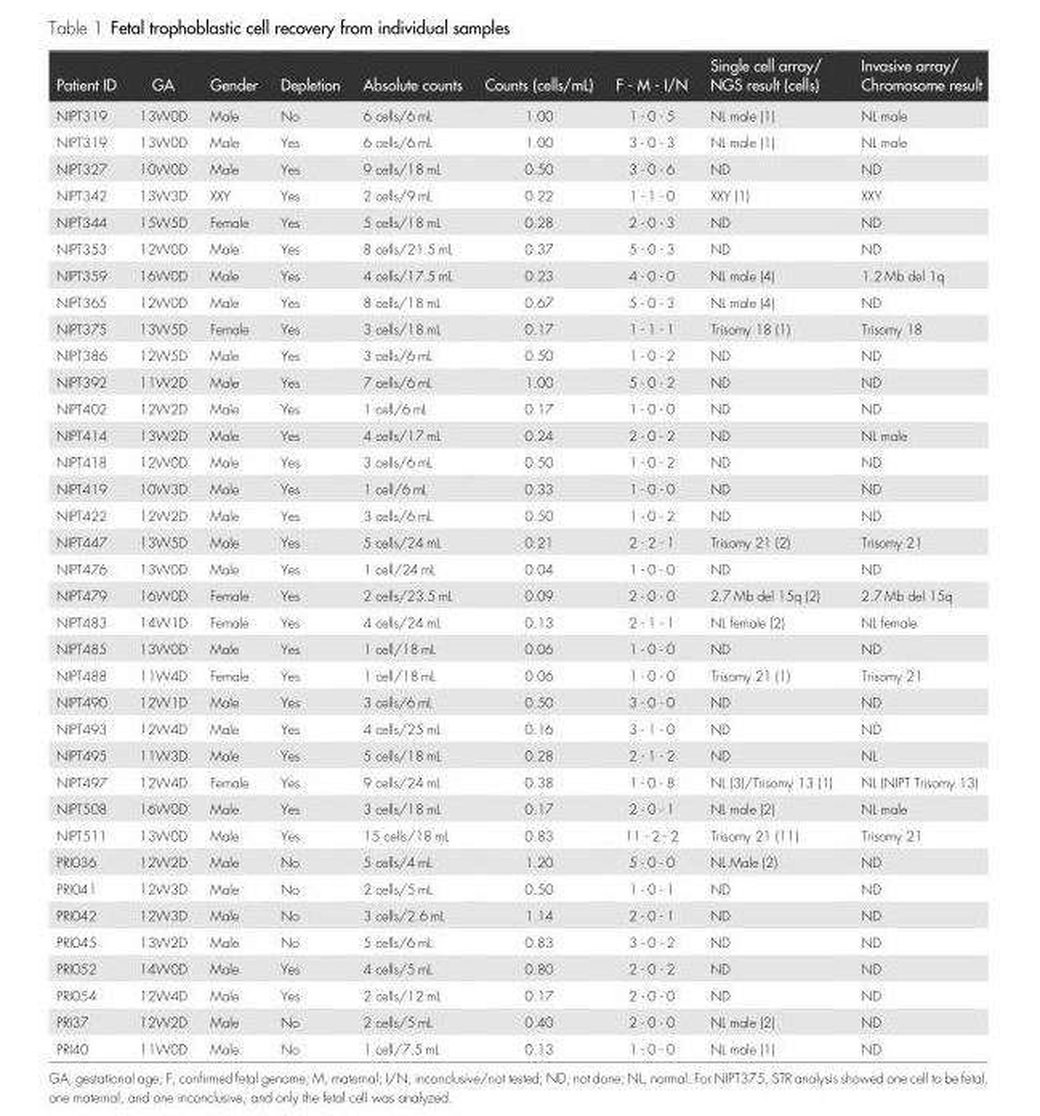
<table><thead><tr><td>Patient ID</td><td>GA</td><td>Gender</td><td>Depletion</td><td>Absolute counts</td><td>Counts (cells/mL)</td><td>F - M - I/N</td><td>Single cell array/ NGS result (cells)</td><td>Invasive array/ Chromosome result</td></tr></thead><tbody><tr><td>NIPT319</td><td>13W0D</td><td>Male</td><td>No</td><td>6 cells/6 mL</td><td>1.00</td><td>1 - 0 - 5</td><td>NL male (1)</td><td>NL male</td></tr><tr><td>NIPT319</td><td>13W0D</td><td>Male</td><td>Yes</td><td>6 cells/6 mL</td><td>1.00</td><td>3 - 0 - 3</td><td>NL male (1)</td><td>NL male</td></tr><tr><td>NIPT327</td><td>10W0D</td><td>Male</td><td>Yes</td><td>9 cells/18 mL</td><td>0.50</td><td>3 - 0 - 6</td><td>ND</td><td>ND</td></tr><tr><td>NIPT342</td><td>13W3D</td><td>XXY</td><td>Yes</td><td>2 cells/9 mL</td><td>0.22</td><td>1 - 1 - 0</td><td>XXY (1)</td><td>XXY</td></tr><tr><td>NIPT344</td><td>15W5D</td><td>Female</td><td>Yes</td><td>5 cells/18 mL</td><td>0.28</td><td>2 - 0 - 3</td><td>ND</td><td>ND</td></tr><tr><td>NIPT353</td><td>12W0D</td><td>Male</td><td>Yes</td><td>8 cells/21.5 mL</td><td>0.37</td><td>5 - 0 - 3</td><td>ND</td><td>ND</td></tr><tr><td>NIPT359</td><td>16W0D</td><td>Male</td><td>Yes</td><td>4 cells/17.5 mL</td><td>0.23</td><td>4 - 0 - 0</td><td>NL male (4)</td><td>1.2 Mb del 1q</td></tr><tr><td>NIPT365</td><td>12W0D</td><td>Male</td><td>Yes</td><td>8 cells/18 mL</td><td>0.67</td><td>5 - 0 - 3</td><td>NL male (4)</td><td>ND</td></tr><tr><td>NIPT375</td><td>13W5D</td><td>Female</td><td>Yes</td><td>3 cells/18 mL</td><td>0.17</td><td>1 - 1 - 1</td><td>Trisomy 18 (1)</td><td>Trisomy 18</td></tr><tr><td>NIPT386</td><td>12W5D</td><td>Male</td><td>Yes</td><td>3 cells/6 mL</td><td>0.50</td><td>1 - 0 - 2</td><td>ND</td><td>ND</td></tr><tr><td>NIPT392</td><td>11W2D</td><td>Male</td><td>Yes</td><td>7 cells/6 mL</td><td>1.00</td><td>5 - 0 - 2</td><td>ND</td><td>ND</td></tr><tr><td>NIPT402</td><td>12W2D</td><td>Male</td><td>Yes</td><td>1 cell/6 mL</td><td>0.17</td><td>1 - 0 - 0</td><td>ND</td><td>ND</td></tr><tr><td>NIPT414</td><td>13W2D</td><td>Male</td><td>Yes</td><td>4 cells/17 mL</td><td>0.24</td><td>2 - 0 - 2</td><td>ND</td><td>NL male</td></tr><tr><td>NIPT418</td><td>12W0D</td><td>Male</td><td>Yes</td><td>3 cells/6 mL</td><td>0.50</td><td>1 - 0 - 2</td><td>ND</td><td>ND</td></tr><tr><td>NIPT419</td><td>10W3D</td><td>Male</td><td>Yes</td><td>1 cell/6 mL</td><td>0.33</td><td>1 - 0 - 0</td><td>ND</td><td>ND</td></tr><tr><td>NIPT422</td><td>12W2D</td><td>Male</td><td>Yes</td><td>3 cells/6 mL</td><td>0.50</td><td>1 - 0 - 2</td><td>ND</td><td>ND</td></tr><tr><td>NIPT447</td><td>13W5D</td><td>Male</td><td>Yes</td><td>5 cells/24 mL</td><td>0.21</td><td>2 - 2 - 1</td><td>Trisomy 21 (2)</td><td>Trisomy 21</td></tr><tr><td>NIPT476</td><td>13W0D</td><td>Male</td><td>Yes</td><td>1 cell/24 mL</td><td>0.04</td><td>1 - 0 - 0</td><td>ND</td><td>ND</td></tr><tr><td>NIPT479</td><td>16W0D</td><td>Female</td><td>Yes</td><td>2 cells/23.5 mL</td><td>0.09</td><td>2 - 0 - 0</td><td>2.7 Mb del 15q (2)</td><td>2.7 Mb del 15q</td></tr><tr><td>NIPT483</td><td>14W1D</td><td>Female</td><td>Yes</td><td>4 cells/24 mL</td><td>0.13</td><td>2 - 1 - 1</td><td>NL female (2)</td><td>NL female</td></tr><tr><td>NIPT485</td><td>13W0D</td><td>Male</td><td>Yes</td><td>1 cell/18 mL</td><td>0.06</td><td>1 - 0 - 0</td><td>ND</td><td>ND</td></tr><tr><td>NIPT488</td><td>11W4D</td><td>Female</td><td>Yes</td><td>1 cell/18 mL</td><td>0.06</td><td>1 - 0 - 0</td><td>Trisomy 21 (1)</td><td>Trisomy 21</td></tr><tr><td>NIPT490</td><td>12W1D</td><td>Male</td><td>Yes</td><td>3 cells/6 mL</td><td>0.50</td><td>3 - 0 - 0</td><td>ND</td><td>ND</td></tr><tr><td>NIPT493</td><td>12W4D</td><td>Male</td><td>Yes</td><td>4 cells/25 mL</td><td>0.16</td><td>3 - 1 - 0</td><td>ND</td><td>ND</td></tr><tr><td>NIPT495</td><td>11W3D</td><td>Male</td><td>Yes</td><td>5 cells/18 mL</td><td>0.28</td><td>2 - 1 - 2</td><td>ND</td><td>NL</td></tr><tr><td>NIPT497</td><td>12W4D</td><td>Female</td><td>Yes</td><td>9 cells/24 mL</td><td>0.38</td><td>1 - 0 - 8</td><td>NL (3)/Trisomy 13 (1)</td><td>NL (NIPT Trisomy 13)</td></tr><tr><td>NIPT508</td><td>16W0D</td><td>Male</td><td>Yes</td><td>3 cells/18 mL</td><td>0.17</td><td>2 - 0 - 1</td><td>NL male (2)</td><td>NL male</td></tr><tr><td>NIPT511</td><td>13W0D</td><td>Male</td><td>Yes</td><td>15 cells/18 mL</td><td>0.83</td><td>11 - 2 - 2</td><td>Trisomy 21 (11)</td><td>Trisomy 21</td></tr><tr><td>PRI036</td><td>12W2D</td><td>Male</td><td>No</td><td>5 cells/4 mL</td><td>1.20</td><td>5 - 0 - 0</td><td>NL Male (2)</td><td>ND</td></tr><tr><td>PRI041</td><td>12W3D</td><td>Male</td><td>No</td><td>2 cells/5 mL</td><td>0.50</td><td>1 - 0 - 1</td><td>ND</td><td>ND</td></tr><tr><td>PRI042</td><td>12W3D</td><td>Male</td><td>No</td><td>3 cells/2.6 mL</td><td>1.14</td><td>2 - 0 - 1</td><td>ND</td><td>ND</td></tr><tr><td>PRI045</td><td>13W2D</td><td>Male</td><td>No</td><td>5 cells/6 mL</td><td>0.83</td><td>3 - 0 - 2</td><td>ND</td><td>ND</td></tr><tr><td>PRI052</td><td>14W0D</td><td>Male</td><td>Yes</td><td>4 cells/5 mL</td><td>0.80</td><td>2 - 0 - 2</td><td>ND</td><td>ND</td></tr><tr><td>PRI054</td><td>12W4D</td><td>Male</td><td>Yes</td><td>2 cells/12 mL</td><td>0.17</td><td>2 - 0 - 0</td><td>ND</td><td>ND</td></tr><tr><td>PRI37</td><td>12W2D</td><td>Male</td><td>No</td><td>2 cells/5 mL</td><td>0.40</td><td>2 - 0 - 0</td><td>NL male (2)</td><td>ND</td></tr><tr><td>PRI40</td><td>11W0D</td><td>Male</td><td>No</td><td>1 cell/7.5 mL</td><td>0.13</td><td>1 - 0 - 0</td><td>NL male (1)</td><td>ND</td></tr></tbody></table>